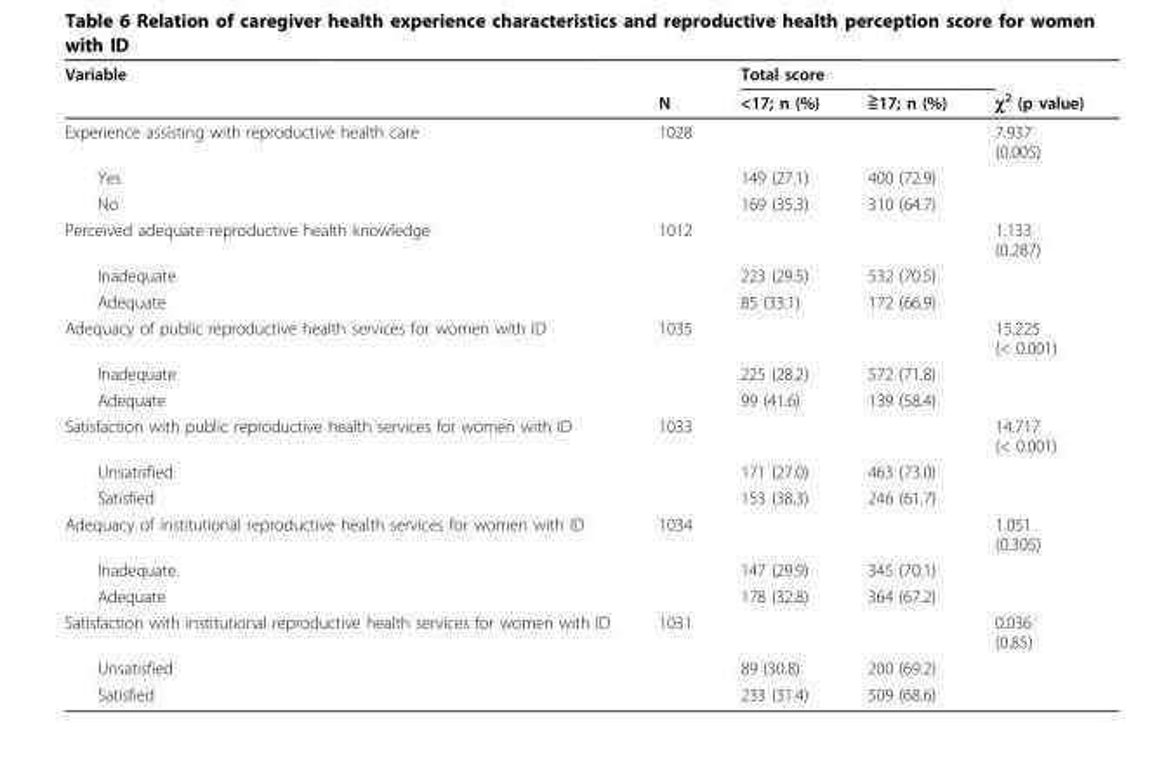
<table><thead><tr><td rowspan="2">Variable</td><td rowspan="2">N</td><td colspan="2">Total score</td><td rowspan="2">χ<sup>2</sup> (p value)</td></tr><tr><td>&lt;17; n (%)</td><td>≧17; n (%)</td></tr></thead><tbody><tr><td>Experience assisting with reproductive health care</td><td>1028</td><td></td><td></td><td>7.937 (0.005)</td></tr><tr><td>Yes</td><td></td><td>149 (27.1)</td><td>400 (72.9)</td><td></td></tr><tr><td>No</td><td></td><td>169 (35.3)</td><td>310 (64.7)</td><td></td></tr><tr><td>Perceived adequate reproductive health knowledge</td><td>1012</td><td></td><td></td><td>1.133 (0.287)</td></tr><tr><td>Inadequate</td><td></td><td>223 (29.5)</td><td>532 (70.5)</td><td></td></tr><tr><td>Adequate</td><td></td><td>85 (33.1)</td><td>172 (66.9)</td><td></td></tr><tr><td>Adequacy of public reproductive health services for women with ID</td><td>1035</td><td></td><td></td><td>15.225 (&lt; 0.001)</td></tr><tr><td>Inadequate</td><td></td><td>225 (28.2)</td><td>572 (71.8)</td><td></td></tr><tr><td>Adequate</td><td></td><td>99 (41.6)</td><td>139 (58.4)</td><td></td></tr><tr><td>Satisfaction with public reproductive health services for women with ID</td><td>1033</td><td></td><td></td><td>14.717 (&lt; 0.001)</td></tr><tr><td>Unsatisfied</td><td></td><td>171 (27.0)</td><td>463 (73.0)</td><td></td></tr><tr><td>Satisfied</td><td></td><td>153 (38.3)</td><td>246 (61.7)</td><td></td></tr><tr><td>Adequacy of institutional reproductive health services for women with ID</td><td>1034</td><td></td><td></td><td>1.051 (0.305)</td></tr><tr><td>Inadequate</td><td></td><td>147 (29.9)</td><td>345 (70.1)</td><td></td></tr><tr><td>Adequate</td><td></td><td>178 (32.8)</td><td>364 (67.2)</td><td></td></tr><tr><td>Satisfaction with institutional reproductive health services for women with ID</td><td>1031</td><td></td><td></td><td>0.036 (0.85)</td></tr><tr><td>Unsatisfied</td><td></td><td>89 (30.8)</td><td>200 (69.2)</td><td></td></tr><tr><td>Satisfied</td><td></td><td>233 (31.4)</td><td>509 (68.6)</td><td></td></tr></tbody></table>